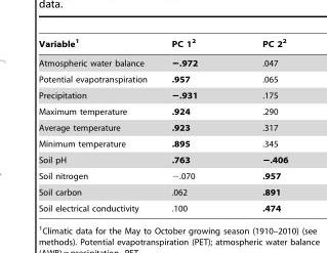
<table><thead><tr><td>Variable<sup>1</sup></td><td>PC 1<sup>2</sup></td><td>PC 2<sup>2</sup></td></tr></thead><tbody><tr><td>Atmospheric water balance</td><td>−.972</td><td>.047</td></tr><tr><td>Potential evapotranspiration</td><td>.957</td><td>.065</td></tr><tr><td>Precipitation</td><td>−.931</td><td>.175</td></tr><tr><td>Maximum temperature</td><td>.924</td><td>.290</td></tr><tr><td>Average temperature</td><td>.923</td><td>.317</td></tr><tr><td>Minimum temperature</td><td>.895</td><td>.345</td></tr><tr><td>Soil pH</td><td>.763</td><td>−.406</td></tr><tr><td>Soil nitrogen</td><td>−.070</td><td>.957</td></tr><tr><td>Soil carbon</td><td>.062</td><td>.891</td></tr><tr><td>Soil electrical conductivity</td><td>.100</td><td>.474</td></tr></tbody></table>